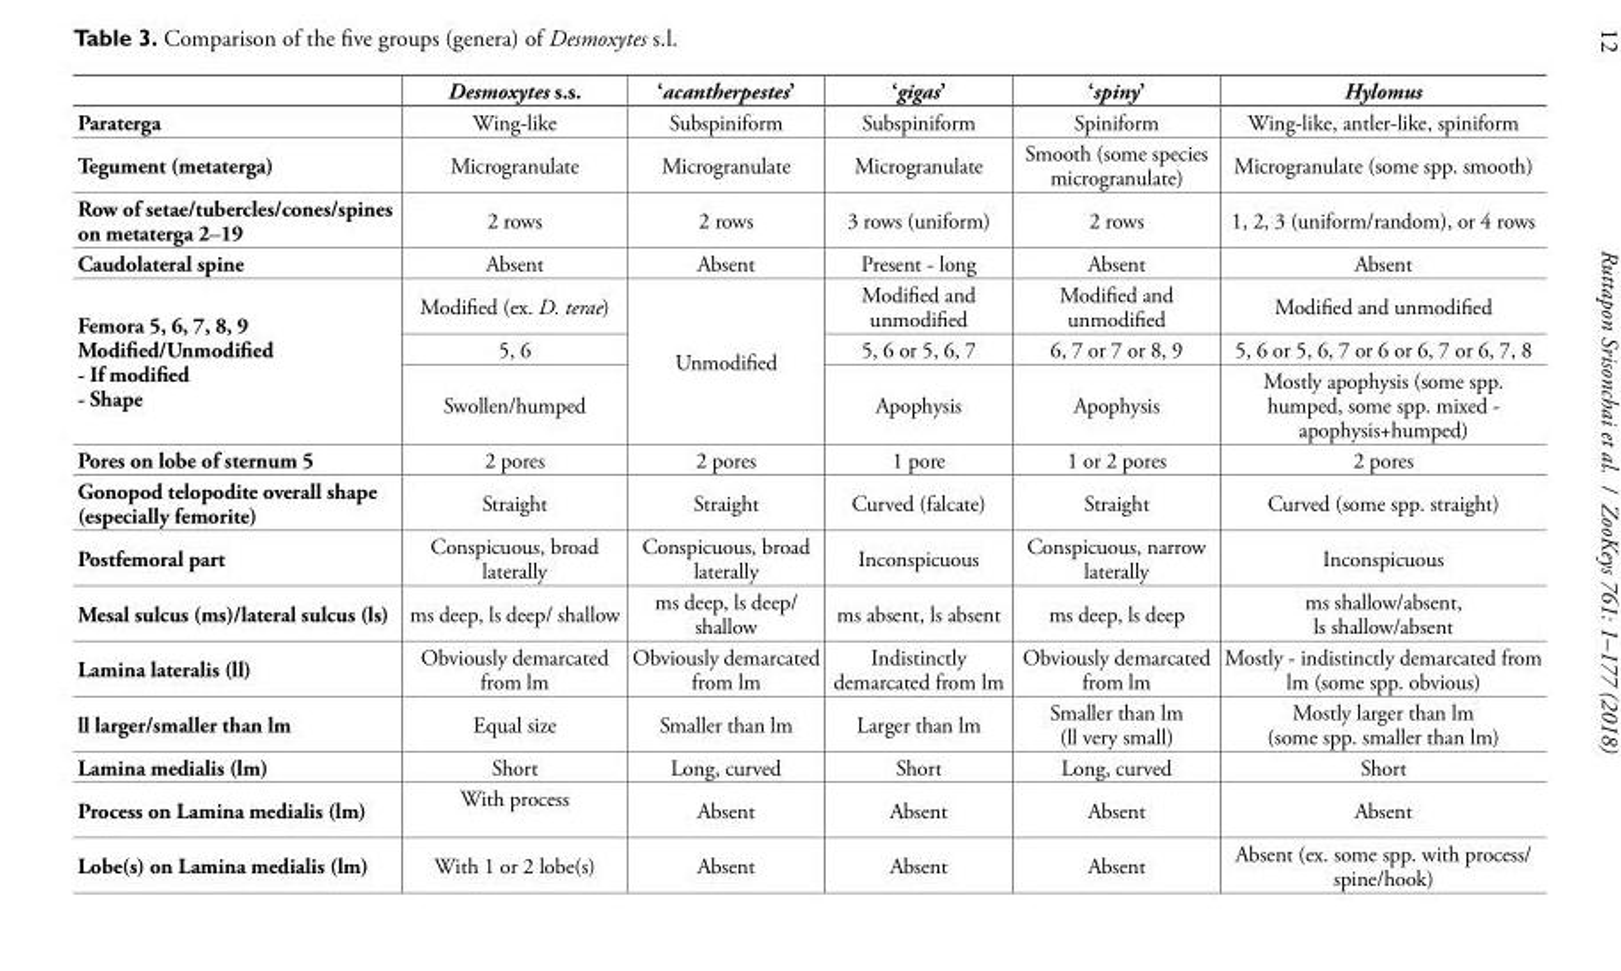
<table><thead><tr><td></td><td>Desmoxytes s.s.</td><td>‘acantherpestes’</td><td>‘gigas’</td><td>‘spiny’</td><td>Hylomus</td></tr></thead><tbody><tr><td>Paraterga</td><td>Wing-like</td><td>Subspiniform</td><td>Subspiniform</td><td>Spiniform</td><td>Wing-like, antler-like, spiniform</td></tr><tr><td>Tegument (metaterga)</td><td>Microgranulate</td><td>Microgranulate</td><td>Microgranulate</td><td>Smooth (some species microgranulate)</td><td>Microgranulate (some spp. smooth)</td></tr><tr><td>Row of setae/tubercles/cones/spines on metaterga 2–19</td><td>2 rows</td><td>2 rows</td><td>3 rows (uniform)</td><td>2 rows</td><td>1, 2, 3 (uniform/random), or 4 rows</td></tr><tr><td>Caudolateral spine</td><td>Absent</td><td>Absent</td><td>Present - long</td><td>Absent</td><td>Absent</td></tr><tr><td rowspan="3">Femora 5, 6, 7, 8, 9 Modified/Unmodified - If modified - Shape</td><td>Modified (ex. D. terae)</td><td rowspan="3">Unmodified</td><td>Modified and unmodified</td><td>Modified and unmodified</td><td>Modified and unmodified</td></tr><tr><td>5, 6</td><td>5, 6 or 5, 6, 7</td><td>6, 7 or 7 or 8, 9</td><td>5, 6 or 5, 6, 7 or 6 or 6, 7 or 6, 7, 8</td></tr><tr><td>Swollen/humped</td><td>Apophysis</td><td>Apophysis</td><td>Mostly apophysis (some spp. humped, some spp. mixed - apophysis+humped)</td></tr><tr><td>Pores on lobe of sternum 5</td><td>2 pores</td><td>2 pores</td><td>1 pore</td><td>1 or 2 pores</td><td>2 pores</td></tr><tr><td>Gonopod telopodite overall shape (especially femorite)</td><td>Straight</td><td>Straight</td><td>Curved (falcate)</td><td>Straight</td><td>Curved (some spp. straight)</td></tr><tr><td>Postfemoral part</td><td>Conspicuous, broad laterally</td><td>Conspicuous, broad laterally</td><td>Inconspicuous</td><td>Conspicuous, narrow laterally</td><td>Inconspicuous</td></tr><tr><td>Mesal sulcus (ms)/lateral sulcus (ls)</td><td>ms deep, ls deep/ shallow</td><td>ms deep, ls deep/ shallow</td><td>ms absent, ls absent</td><td>ms deep, ls deep</td><td>ms shallow/absent, ls shallow/absent</td></tr><tr><td>Lamina lateralis (ll)</td><td>Obviously demarcated from lm</td><td>Obviously demarcated from lm</td><td>Indistinctly demarcated from lm</td><td>Obviously demarcated from lm</td><td>Mostly - indistinctly demarcated from lm (some spp. obvious)</td></tr><tr><td>ll larger/smaller than lm</td><td>Equal size</td><td>Smaller than lm</td><td>Larger than lm</td><td>Smaller than lm (ll very small)</td><td>Mostly larger than lm (some spp. smaller than lm)</td></tr><tr><td>Lamina medialis (lm)</td><td>Short</td><td>Long, curved</td><td>Short</td><td>Long, curved</td><td>Short</td></tr><tr><td>Process on Lamina medialis (lm)</td><td>With process</td><td>Absent</td><td>Absent</td><td>Absent</td><td>Absent</td></tr><tr><td>Lobe(s) on Lamina medialis (lm)</td><td>With 1 or 2 lobe(s)</td><td>Absent</td><td>Absent</td><td>Absent</td><td>Absent (ex. some spp. with process/ spine/hook)</td></tr></tbody></table>